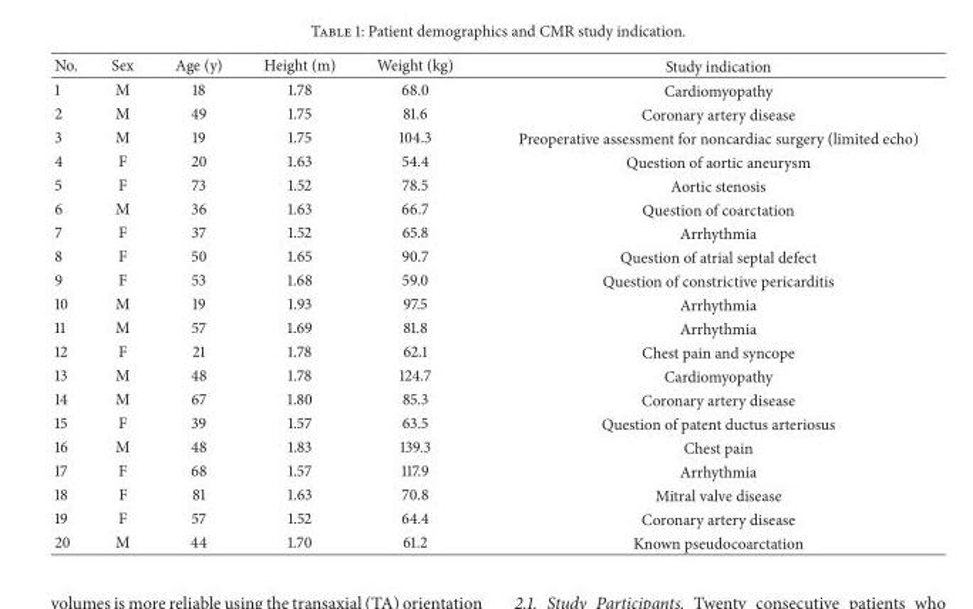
<table><thead><tr><td>No.</td><td>Sex</td><td>Age (y)</td><td>Height (m)</td><td>Weight (kg)</td><td>Study indication</td></tr></thead><tbody><tr><td>1</td><td>M</td><td>18</td><td>1.78</td><td>68.0</td><td>Cardiomyopathy</td></tr><tr><td>2</td><td>M</td><td>49</td><td>1.75</td><td>81.6</td><td>Coronary artery disease</td></tr><tr><td>3</td><td>M</td><td>19</td><td>1.75</td><td>104.3</td><td>Preoperative assessment for noncardiac surgery (limited echo)</td></tr><tr><td>4</td><td>F</td><td>20</td><td>1.63</td><td>54.4</td><td>Question of aortic aneurysm</td></tr><tr><td>5</td><td>F</td><td>73</td><td>1.52</td><td>78.5</td><td>Aortic stenosis</td></tr><tr><td>6</td><td>M</td><td>36</td><td>1.63</td><td>66.7</td><td>Question of coarctation</td></tr><tr><td>7</td><td>F</td><td>37</td><td>1.52</td><td>65.8</td><td>Arrhythmia</td></tr><tr><td>8</td><td>F</td><td>50</td><td>1.65</td><td>90.7</td><td>Question of atrial septal defect</td></tr><tr><td>9</td><td>F</td><td>53</td><td>1.68</td><td>59.0</td><td>Question of constrictive pericarditis</td></tr><tr><td>10</td><td>M</td><td>19</td><td>1.93</td><td>97.5</td><td>Arrhythmia</td></tr><tr><td>11</td><td>M</td><td>57</td><td>1.69</td><td>81.8</td><td>Arrhythmia</td></tr><tr><td>12</td><td>F</td><td>21</td><td>1.78</td><td>62.1</td><td>Chest pain and syncope</td></tr><tr><td>13</td><td>M</td><td>48</td><td>1.78</td><td>124.7</td><td>Cardiomyopathy</td></tr><tr><td>14</td><td>M</td><td>67</td><td>1.80</td><td>85.3</td><td>Coronary artery disease</td></tr><tr><td>15</td><td>F</td><td>39</td><td>1.57</td><td>63.5</td><td>Question of patent ductus arteriosus</td></tr><tr><td>16</td><td>M</td><td>48</td><td>1.83</td><td>139.3</td><td>Chest pain</td></tr><tr><td>17</td><td>F</td><td>68</td><td>1.57</td><td>117.9</td><td>Arrhythmia</td></tr><tr><td>18</td><td>F</td><td>81</td><td>1.63</td><td>70.8</td><td>Mitral valve disease</td></tr><tr><td>19</td><td>F</td><td>57</td><td>1.52</td><td>64.4</td><td>Coronary artery disease</td></tr><tr><td>20</td><td>M</td><td>44</td><td>1.70</td><td>61.2</td><td>Known pseudocoarctation</td></tr></tbody></table>